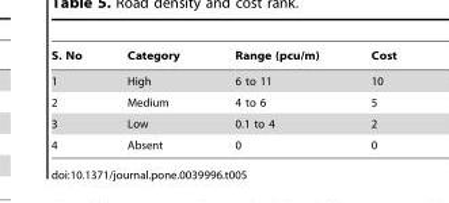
<table><thead><tr><td>S. No</td><td>Category</td><td>Range (pcu/m)</td><td>Cost</td></tr></thead><tbody><tr><td>1</td><td>High</td><td>6 to 11</td><td>10</td></tr><tr><td>2</td><td>Medium</td><td>4 to 6</td><td>5</td></tr><tr><td>3</td><td>Low</td><td>0.1 to 4</td><td>2</td></tr><tr><td>4</td><td>Absent</td><td>0</td><td>0</td></tr></tbody></table>